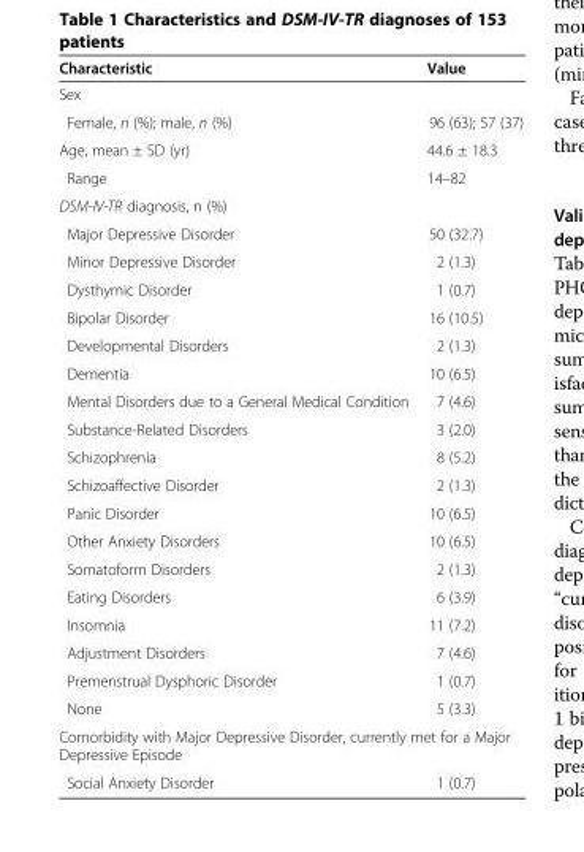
<table><thead><tr><td>Characteristic</td><td>Value</td></tr></thead><tbody><tr><td colspan="2">Sex</td></tr><tr><td>Female, n (%); male, n (%)</td><td>96 (63); 57 (37)</td></tr><tr><td>Age, mean ± SD (yr)</td><td>44.6 ± 18.3</td></tr><tr><td>Range</td><td>14–82</td></tr><tr><td colspan="2">DSM-IV-TR diagnosis, n (%)</td></tr><tr><td>Major Depressive Disorder</td><td>50 (32.7)</td></tr><tr><td>Minor Depressive Disorder</td><td>2 (1.3)</td></tr><tr><td>Dysthymic Disorder</td><td>1 (0.7)</td></tr><tr><td>Bipolar Disorder</td><td>16 (10.5)</td></tr><tr><td>Developmental Disorders</td><td>2 (1.3)</td></tr><tr><td>Dementia</td><td>10 (6.5)</td></tr><tr><td>Mental Disorders due to a General Medical Condition</td><td>7 (4.6)</td></tr><tr><td>Substance-Related Disorders</td><td>3 (2.0)</td></tr><tr><td>Schizophrenia</td><td>8 (5.2)</td></tr><tr><td>Schizoaffective Disorder</td><td>2 (1.3)</td></tr><tr><td>Panic Disorder</td><td>10 (6.5)</td></tr><tr><td>Other Anxiety Disorders</td><td>10 (6.5)</td></tr><tr><td>Somatoform Disorders</td><td>2 (1.3)</td></tr><tr><td>Eating Disorders</td><td>6 (3.9)</td></tr><tr><td>Insomnia</td><td>11 (7.2)</td></tr><tr><td>Adjustment Disorders</td><td>7 (4.6)</td></tr><tr><td>Premenstrual Dysphoric Disorder</td><td>1 (0.7)</td></tr><tr><td>None</td><td>5 (3.3)</td></tr><tr><td colspan="2">Comorbidity with Major Depressive Disorder, currently met for a Major Depressive Episode</td></tr><tr><td>Social Anxiety Disorder</td><td>1 (0.7)</td></tr></tbody></table>